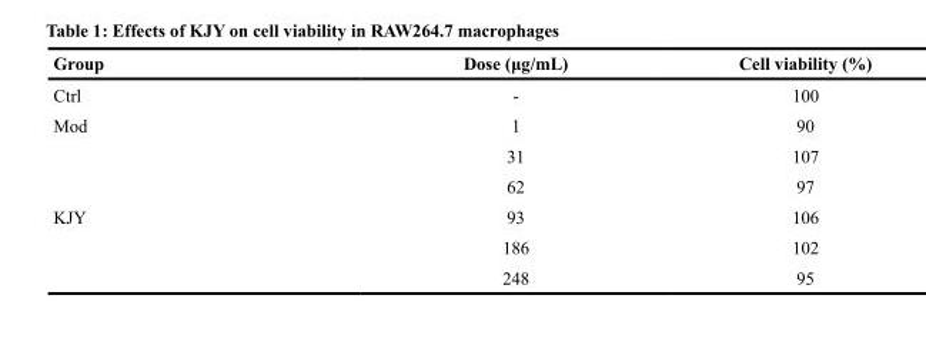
<table><thead><tr><td>Group</td><td>Dose (μg/mL)</td><td>Cell viability (%)</td></tr></thead><tbody><tr><td>Ctrl</td><td>-</td><td>100</td></tr><tr><td rowspan="3">Mod</td><td>1</td><td>90</td></tr><tr><td>31</td><td>107</td></tr><tr><td>62</td><td>97</td></tr><tr><td rowspan="3">KJY</td><td>93</td><td>106</td></tr><tr><td>186</td><td>102</td></tr><tr><td>248</td><td>95</td></tr></tbody></table>